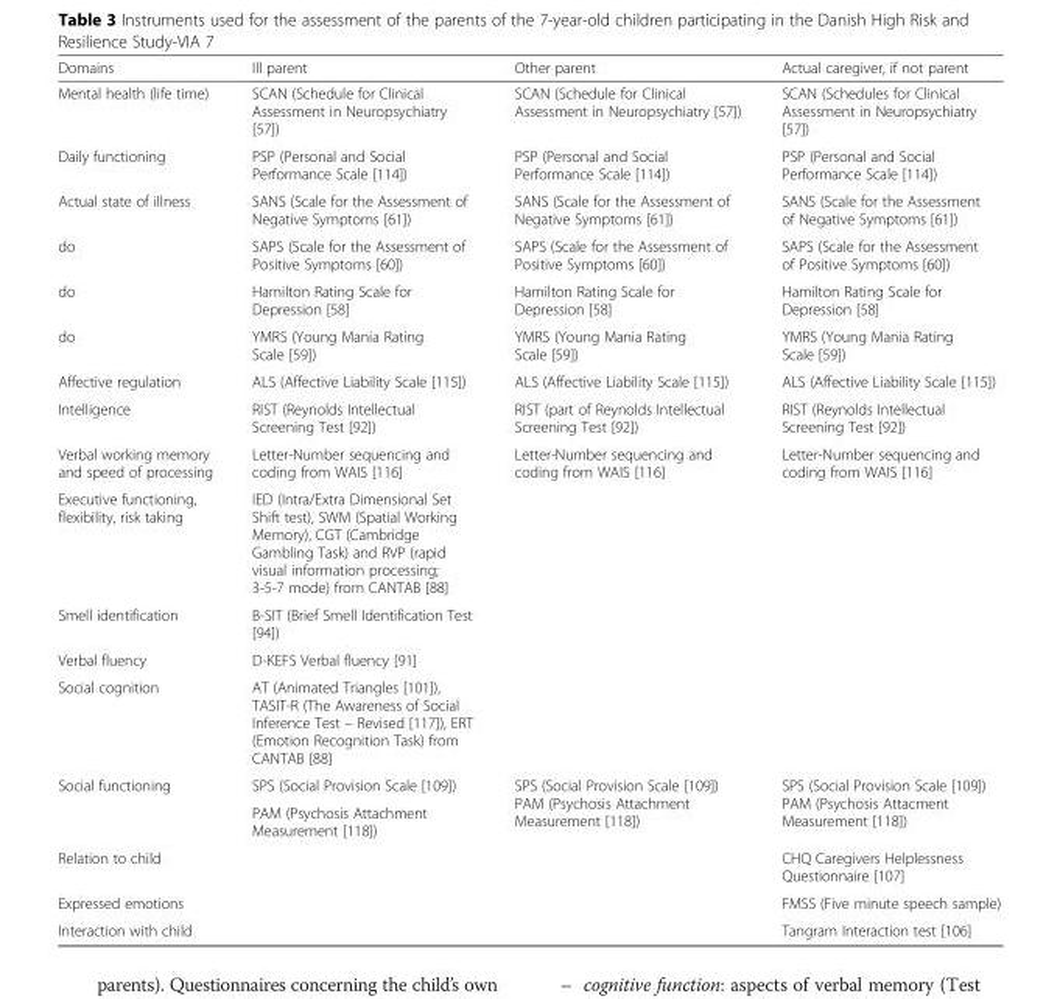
<table><thead><tr><td>Domains</td><td>Ill parent</td><td>Other parent</td><td>Actual caregiver, if not parent</td></tr></thead><tbody><tr><td>Mental health (life time)</td><td>SCAN (Schedule for Clinical Assessment in Neuropsychiatry [57])</td><td>SCAN (Schedule for Clinical Assessment in Neuropsychiatry [57])</td><td>SCAN (Schedules for Clinical Assessment in Neuropsychiatry [57])</td></tr><tr><td>Daily functioning</td><td>PSP (Personal and Social Performance Scale [114])</td><td>PSP (Personal and Social Performance Scale [114])</td><td>PSP (Personal and Social Performance Scale [114])</td></tr><tr><td>Actual state of illness</td><td>SANS (Scale for the Assessment of Negative Symptoms [61])</td><td>SANS (Scale for the Assessment of Negative Symptoms [61])</td><td>SANS (Scale for the Assessment of Negative Symptoms [61])</td></tr><tr><td>do</td><td>SAPS (Scale for the Assessment of Positive Symptoms [60])</td><td>SAPS (Scale for the Assessment of Positive Symptoms [60])</td><td>SAPS (Scale for the Assessment of Positive Symptoms [60])</td></tr><tr><td>do</td><td>Hamilton Rating Scale for Depression [58]</td><td>Hamilton Rating Scale for Depression [58]</td><td>Hamilton Rating Scale for Depression [58]</td></tr><tr><td>do</td><td>YMRS (Young Mania Rating Scale [59])</td><td>YMRS (Young Mania Rating Scale [59])</td><td>YMRS (Young Mania Rating Scale [59])</td></tr><tr><td>Affective regulation</td><td>ALS (Affective Liability Scale [115])</td><td>ALS (Affective Liability Scale [115])</td><td>ALS (Affective Liability Scale [115])</td></tr><tr><td>Intelligence</td><td>RIST (Reynolds Intellectual Screening Test [92])</td><td>RIST (part of Reynolds Intellectual Screening Test [92])</td><td>RIST (Reynolds Intellectual Screening Test [92])</td></tr><tr><td>Verbal working memory and speed of processing</td><td>Letter-Number sequencing and coding from WAIS [116]</td><td>Letter-Number sequencing and coding from WAIS [116]</td><td>Letter-Number sequencing and coding from WAIS [116]</td></tr><tr><td>Executive functioning, flexibility, risk taking</td><td>IED (Intra/Extra Dimensional Set Shift test), SWM (Spatial Working Memory), CGT (Cambridge Gambling Task) and RVP (rapid visual information processing; 3-5-7 mode) from CANTAB [88]</td><td></td><td></td></tr><tr><td>Smell identification</td><td>B-SIT (Brief Smell Identification Test [94])</td><td></td><td></td></tr><tr><td>Verbal fluency</td><td>D-KEFS Verbal fluency [91]</td><td></td><td></td></tr><tr><td>Social cognition</td><td>AT (Animated Triangles [101]), TASIT-R (The Awareness of Social Inference Test – Revised [117]), ERT (Emotion Recognition Task) from CANTAB [88]</td><td></td><td></td></tr><tr><td rowspan="2">Social functioning</td><td>SPS (Social Provision Scale [109])</td><td rowspan="2">SPS (Social Provision Scale [109]) PAM (Psychosis Attachment Measurement [118])</td><td rowspan="2">SPS (Social Provision Scale [109]) PAM (Psychosis Attacment Measurement [118])</td></tr><tr><td>PAM (Psychosis Attachment Measurement [118])</td></tr><tr><td>Relation to child</td><td></td><td></td><td>CHQ Caregivers Helplessness Questionnaire [107]</td></tr><tr><td>Expressed emotions</td><td></td><td></td><td>FMSS (Five minute speech sample)</td></tr><tr><td>Interaction with child</td><td></td><td></td><td>Tangram Interaction test [106]</td></tr></tbody></table>